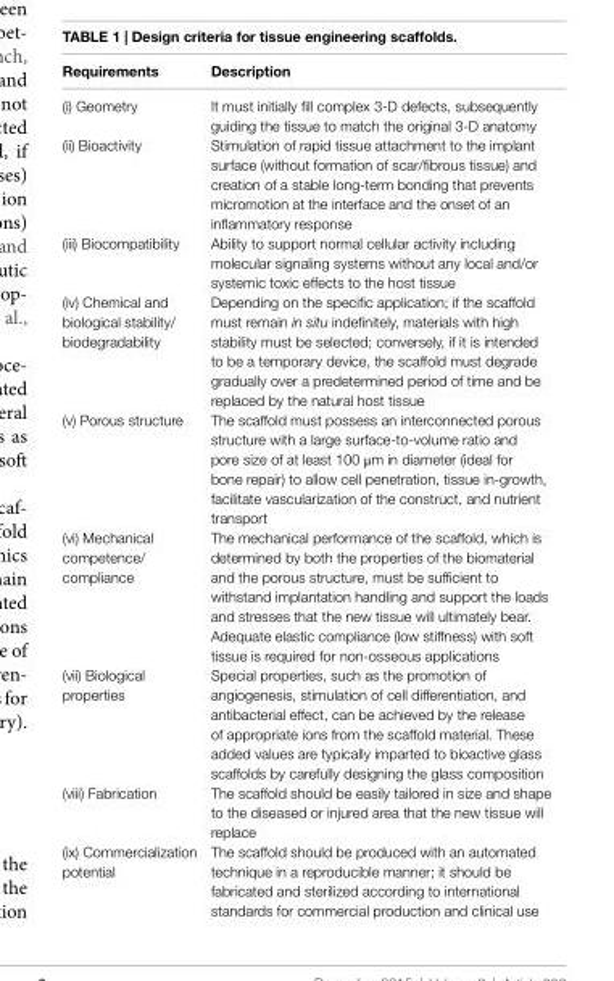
<table><thead><tr><td>Requirements</td><td>Description</td></tr></thead><tbody><tr><td>(i) Geometry</td><td>It must initially fill complex 3-D defects, subsequently guiding the tissue to match the original 3-D anatomy</td></tr><tr><td>(ii) Bioactivity</td><td>Stimulation of rapid tissue attachment to the implant surface (without formation of scar/fibrous tissue) and creation of a stable long-term bonding that prevents micromotion at the interface and the onset of an inflammatory response</td></tr><tr><td>(iii) Biocompatibility</td><td>Ability to support normal cellular activity including molecular signaling systems without any local and/or systemic toxic effects to the host tissue</td></tr><tr><td>(iv) Chemical and biological stability/ biodegradability</td><td>Depending on the specific application; if the scaffold must remain in situ indefinitely, materials with high stability must be selected; conversely, if it is intended to be a temporary device, the scaffold must degrade gradually over a predetermined period of time and be replaced by the natural host tissue</td></tr><tr><td>(v) Porous structure</td><td>The scaffold must possess an interconnected porous structure with a large surface-to-volume ratio and pore size of at least 100 μm in diameter (ideal for bone repair) to allow cell penetration, tissue in-growth, facilitate vascularization of the construct, and nutrient transport</td></tr><tr><td>(vi) Mechanical competence/ compliance</td><td>The mechanical performance of the scaffold, which is determined by both the properties of the biomaterial and the porous structure, must be sufficient to withstand implantation handling and support the loads and stresses that the new tissue will ultimately bear. Adequate elastic compliance (low stiffness) with soft tissue is required for non-osseous applications</td></tr><tr><td>(vii) Biological properties</td><td>Special properties, such as the promotion of angiogenesis, stimulation of cell differentiation, and antibacterial effect, can be achieved by the release of appropriate ions from the scaffold material. These added values are typically imparted to bioactive glass scaffolds by carefully designing the glass composition</td></tr><tr><td>(viii) Fabrication</td><td>The scaffold should be easily tailored in size and shape to the diseased or injured area that the new tissue will replace</td></tr><tr><td>(ix) Commercialization potential</td><td>The scaffold should be produced with an automated technique in a reproducible manner; it should be fabricated and sterilized according to international standards for commercial production and clinical use</td></tr></tbody></table>